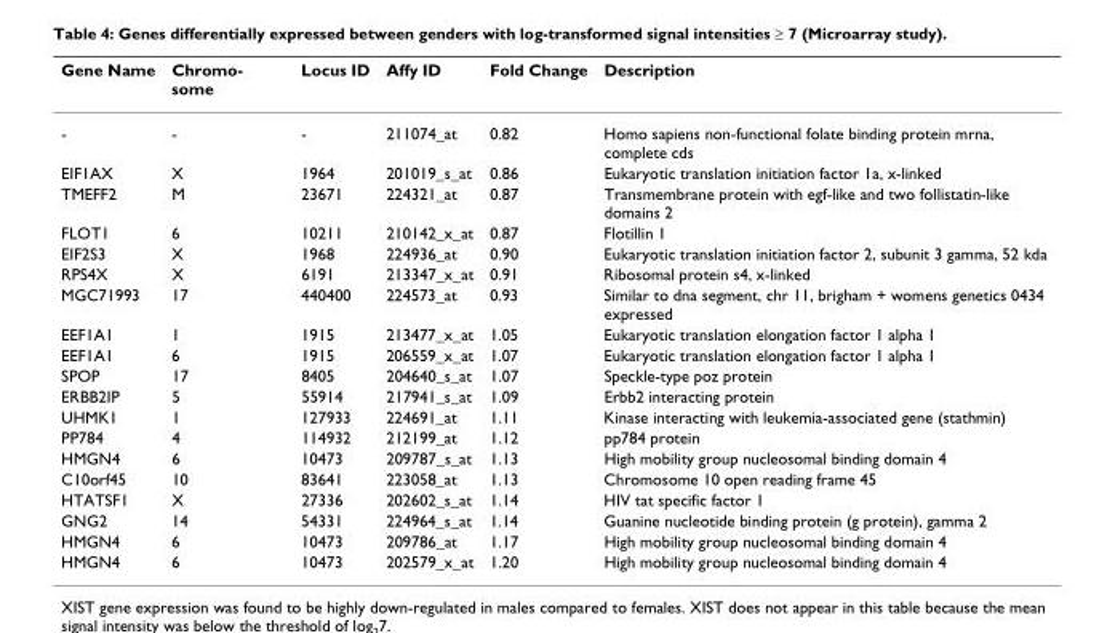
<table><thead><tr><td>Gene Name</td><td>Chromo- some</td><td>Locus ID</td><td>Affy ID</td><td>Fold Change</td><td>Description</td></tr></thead><tbody><tr><td>-</td><td>-</td><td>-</td><td>211074_at</td><td>0.82</td><td>Homo sapiens non-functional folate binding protein mrna, complete cds</td></tr><tr><td>EIF1AX</td><td>X</td><td>1964</td><td>201019_s_at</td><td>0.86</td><td>Eukaryotic translation initiation factor 1a, x-linked</td></tr><tr><td>TMEFF2</td><td>M</td><td>23671</td><td>224321_at</td><td>0.87</td><td>Transmembrane protein with egf-like and two follistatin-like domains 2</td></tr><tr><td>FLOT1</td><td>6</td><td>10211</td><td>210142_x_at</td><td>0.87</td><td>Flotillin 1</td></tr><tr><td>EIF2S3</td><td>X</td><td>1968</td><td>224936_at</td><td>0.90</td><td>Eukaryotic translation initiation factor 2, subunit 3 gamma, 52 kda</td></tr><tr><td>RPS4X</td><td>X</td><td>6191</td><td>213347_x_at</td><td>0.91</td><td>Ribosomal protein s4, x-linked</td></tr><tr><td>MGC71993</td><td>17</td><td>440400</td><td>224573_at</td><td>0.93</td><td>Similar to dna segment, chr 11, brigham + womens genetics 0434 expressed</td></tr><tr><td>EEF1A1</td><td>1</td><td>1915</td><td>213477_x_at</td><td>1.05</td><td>Eukaryotic translation elongation factor 1 alpha 1</td></tr><tr><td>EEF1A1</td><td>6</td><td>1915</td><td>206559_x_at</td><td>1.07</td><td>Eukaryotic translation elongation factor 1 alpha 1</td></tr><tr><td>SPOP</td><td>17</td><td>8405</td><td>204640_s_at</td><td>1.07</td><td>Speckle-type poz protein</td></tr><tr><td>ERBB2IP</td><td>5</td><td>55914</td><td>217941_s_at</td><td>1.09</td><td>Erbb2 interacting protein</td></tr><tr><td>UHMK1</td><td>1</td><td>127933</td><td>224691_at</td><td>1.11</td><td>Kinase interacting with leukemia-associated gene (stathmin)</td></tr><tr><td>PP784</td><td>4</td><td>114932</td><td>212199_at</td><td>1.12</td><td>pp784 protein</td></tr><tr><td>HMGN4</td><td>6</td><td>10473</td><td>209787_s_at</td><td>1.13</td><td>High mobility group nucleosomal binding domain 4</td></tr><tr><td>C10orf45</td><td>10</td><td>83641</td><td>223058_at</td><td>1.13</td><td>Chromosome 10 open reading frame 45</td></tr><tr><td>HTATSF1</td><td>X</td><td>27336</td><td>202602_s_at</td><td>1.14</td><td>HIV tat specific factor 1</td></tr><tr><td>GNG2</td><td>14</td><td>54331</td><td>224964_s_at</td><td>1.14</td><td>Guanine nucleotide binding protein (g protein), gamma 2</td></tr><tr><td>HMGN4</td><td>6</td><td>10473</td><td>209786_at</td><td>1.17</td><td>High mobility group nucleosomal binding domain 4</td></tr><tr><td>HMGN4</td><td>6</td><td>10473</td><td>202579_x_at</td><td>1.20</td><td>High mobility group nucleosomal binding domain 4</td></tr></tbody></table>